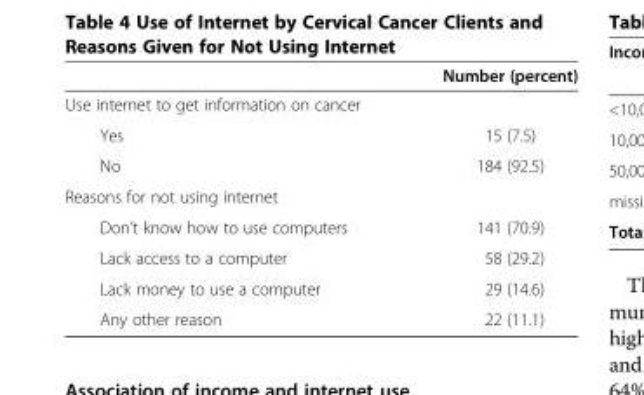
<table><thead><tr><td></td><td>Number (percent)</td></tr></thead><tbody><tr><td colspan="2">Use internet to get information on cancer</td></tr><tr><td>Yes</td><td>15 (7.5)</td></tr><tr><td>No</td><td>184 (92.5)</td></tr><tr><td colspan="2">Reasons for not using internet</td></tr><tr><td>Don’t know how to use computers</td><td>141 (70.9)</td></tr><tr><td>Lack access to a computer</td><td>58 (29.2)</td></tr><tr><td>Lack money to use a computer</td><td>29 (14.6)</td></tr><tr><td>Any other reason</td><td>22 (11.1)</td></tr></tbody></table>